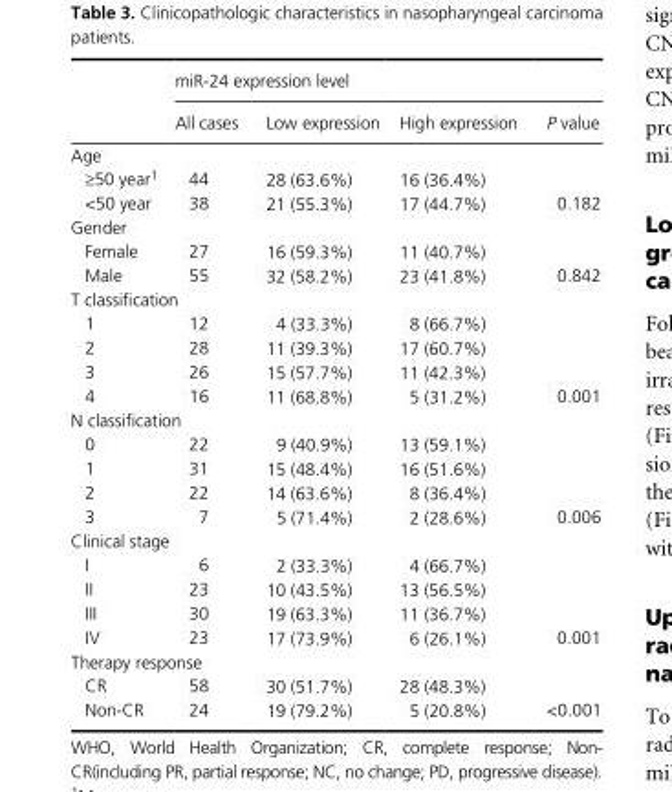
<table><thead><tr><td rowspan="2"></td><td colspan="4">miR- 24 expression level</td></tr><tr><td>All cases</td><td>Low expression</td><td>High expression</td><td>P value</td></tr></thead><tbody><tr><td colspan="5">Age</td></tr><tr><td>≥50 year1</td><td>44</td><td>28 (63.6%)</td><td>16 (36.4%)</td><td></td></tr><tr><td>&lt;50 year</td><td>38</td><td>21 (55.3%)</td><td>17 (44.7%)</td><td>0.182</td></tr><tr><td colspan="5">Gender</td></tr><tr><td>Female</td><td>27</td><td>16 (59.3%)</td><td>11 (40.7%)</td><td></td></tr><tr><td>Male</td><td>55</td><td>32 (58.2%)</td><td>23 (41.8%)</td><td>0.842</td></tr><tr><td colspan="5">T classification</td></tr><tr><td>1</td><td>12</td><td>4 (33.3%)</td><td>8 (66.7%)</td><td></td></tr><tr><td>2</td><td>28</td><td>11 (39.3%)</td><td>17 (60.7%)</td><td></td></tr><tr><td>3</td><td>26</td><td>15 (57.7%)</td><td>11 (42.3%)</td><td></td></tr><tr><td>4</td><td>16</td><td>11 (68.8%)</td><td>5 (31.2%)</td><td>0.001</td></tr><tr><td colspan="5">N classification</td></tr><tr><td>0</td><td>22</td><td>9 (40.9%)</td><td>13 (59.1%)</td><td></td></tr><tr><td>1</td><td>31</td><td>15 (48.4%)</td><td>16 (51.6%)</td><td></td></tr><tr><td>2</td><td>22</td><td>14 (63.6%)</td><td>8 (36.4%)</td><td></td></tr><tr><td>3</td><td>7</td><td>5 (71.4%)</td><td>2 (28.6%)</td><td>0.006</td></tr><tr><td colspan="5">Clinical stage</td></tr><tr><td>I</td><td>6</td><td>2 (33.3%)</td><td>4 (66.7%)</td><td></td></tr><tr><td>II</td><td>23</td><td>10 (43.5%)</td><td>13 (56.5%)</td><td></td></tr><tr><td>III</td><td>30</td><td>19 (63.3%)</td><td>11 (36.7%)</td><td></td></tr><tr><td>IV</td><td>23</td><td>17 (73.9%)</td><td>6 (26.1%)</td><td>0.001</td></tr><tr><td colspan="5">Therapy response</td></tr><tr><td>CR</td><td>58</td><td>30 (51.7%)</td><td>28 (48.3%)</td><td></td></tr><tr><td>Non- CR</td><td>24</td><td>19 (79.2%)</td><td>5 (20.8%)</td><td>&lt;0.001</td></tr></tbody></table>